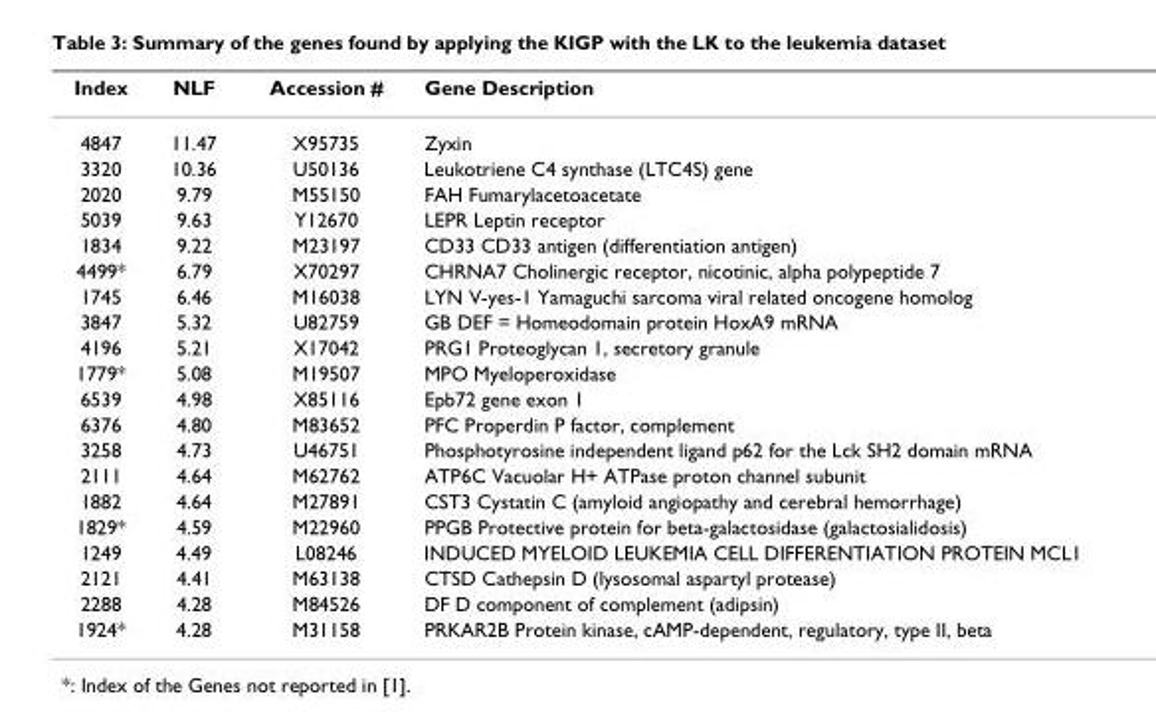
<table><thead><tr><td>Index</td><td>NLF</td><td>Accession #</td><td>Gene Description</td></tr></thead><tbody><tr><td>4847</td><td>11.47</td><td>X95735</td><td>Zyxin</td></tr><tr><td>3320</td><td>10.36</td><td>U50136</td><td>Leukotriene C4 synthase (LTC4S) gene</td></tr><tr><td>2020</td><td>9.79</td><td>M55150</td><td>FAH Fumarylacetoacetate</td></tr><tr><td>5039</td><td>9.63</td><td>Y12670</td><td>LEPR Leptin receptor</td></tr><tr><td>1834</td><td>9.22</td><td>M23197</td><td>CD33 CD33 antigen (differentiation antigen)</td></tr><tr><td>4499*</td><td>6.79</td><td>X70297</td><td>CHRNA7 Cholinergic receptor, nicotinic, alpha polypeptide 7</td></tr><tr><td>1745</td><td>6.46</td><td>M16038</td><td>LYN V-yes-1 Yamaguchi sarcoma viral related oncogene homolog</td></tr><tr><td>3847</td><td>5.32</td><td>U82759</td><td>GB DEF = Homeodomain protein HoxA9 mRNA</td></tr><tr><td>4196</td><td>5.21</td><td>X17042</td><td>PRG1 Proteoglycan 1, secretory granule</td></tr><tr><td>1779*</td><td>5.08</td><td>M19507</td><td>MPO Myeloperoxidase</td></tr><tr><td>6539</td><td>4.98</td><td>X85116</td><td>Epb72 gene exon 1</td></tr><tr><td>6376</td><td>4.80</td><td>M83652</td><td>PFC Properdin P factor, complement</td></tr><tr><td>3258</td><td>4.73</td><td>U46751</td><td>Phosphotyrosine independent ligand p62 for the Lck SH2 domain mRNA</td></tr><tr><td>2111</td><td>4.64</td><td>M62762</td><td>ATP6C Vacuolar H+ ATPase proton channel subunit</td></tr><tr><td>1882</td><td>4.64</td><td>M27891</td><td>CST3 Cystatin C (amyloid angiopathy and cerebral hemorrhage)</td></tr><tr><td>1829*</td><td>4.59</td><td>M22960</td><td>PPGB Protective protein for beta-galactosidase (galactosialidosis)</td></tr><tr><td>1249</td><td>4.49</td><td>L08246</td><td>INDUCED MYELOID LEUKEMIA CELL DIFFERENTIATION PROTEIN MCL1</td></tr><tr><td>2121</td><td>4.41</td><td>M63138</td><td>CTSD Cathepsin D (lysosomal aspartyl protease)</td></tr><tr><td>2288</td><td>4.28</td><td>M84526</td><td>DF D component of complement (adipsin)</td></tr><tr><td>1924*</td><td>4.28</td><td>M31158</td><td>PRKAR2B Protein kinase, cAMP-dependent, regulatory, type II, beta</td></tr></tbody></table>